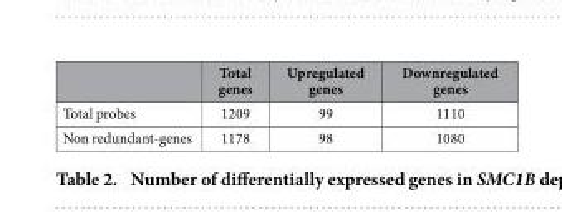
<table><thead><tr><td></td><td>Total genes</td><td>Upregulated genes</td><td>Downregulated genes</td></tr></thead><tbody><tr><td>Total probes</td><td>1209</td><td>99</td><td>1110</td></tr><tr><td>Non redundant-genes</td><td>1178</td><td>98</td><td>1080</td></tr></tbody></table>